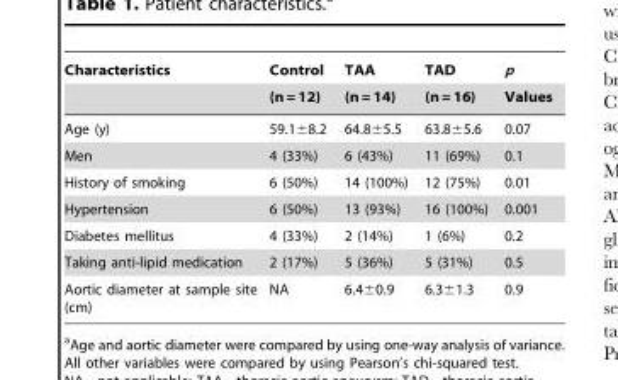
<table><thead><tr><td rowspan="2">Characteristics</td><td rowspan="2">Control (n = 12)</td><td rowspan="2">TAA (n = 14)</td><td rowspan="2">TAD (n = 16)</td><td rowspan="2">p Values</td></tr><tr></tr></thead><tbody><tr><td>Age (y)</td><td>59.1±8.2</td><td>64.8±5.5</td><td>63.8±5.6</td><td>0.07</td></tr><tr><td>Men</td><td>4 (33%)</td><td>6 (43%)</td><td>11 (69%)</td><td>0.1</td></tr><tr><td>History of smoking</td><td>6 (50%)</td><td>14 (100%)</td><td>12 (75%)</td><td>0.01</td></tr><tr><td>Hypertension</td><td>6 (50%)</td><td>13 (93%)</td><td>16 (100%)</td><td>0.001</td></tr><tr><td>Diabetes mellitus</td><td>4 (33%)</td><td>2 (14%)</td><td>1 (6%)</td><td>0.2</td></tr><tr><td>Taking anti-lipid medication</td><td>2 (17%)</td><td>5 (36%)</td><td>5 (31%)</td><td>0.5</td></tr><tr><td>Aortic diameter at sample site (cm)</td><td>NA</td><td>6.4±0.9</td><td>6.3±1.3</td><td>0.9</td></tr></tbody></table>